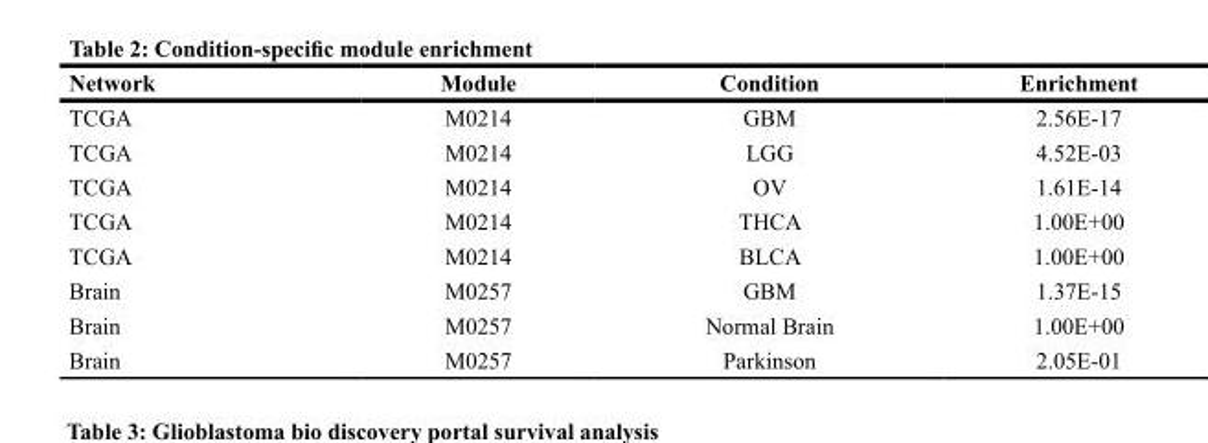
<table><thead><tr><td>Network</td><td>Module</td><td>Condition</td><td>Enrichment</td></tr></thead><tbody><tr><td>TCGA</td><td>M0214</td><td>GBM</td><td>2.56E-17</td></tr><tr><td>TCGA</td><td>M0214</td><td>LGG</td><td>4.52E-03</td></tr><tr><td>TCGA</td><td>M0214</td><td>OV</td><td>1.61E-14</td></tr><tr><td>TCGA</td><td>M0214</td><td>THCA</td><td>1.00E+00</td></tr><tr><td>TCGA</td><td>M0214</td><td>BLCA</td><td>1.00E+00</td></tr><tr><td>Brain</td><td>M0257</td><td>GBM</td><td>1.37E-15</td></tr><tr><td>Brain</td><td>M0257</td><td>Normal Brain</td><td>1.00E+00</td></tr><tr><td>Brain</td><td>M0257</td><td>Parkinson</td><td>2.05E-01</td></tr></tbody></table>